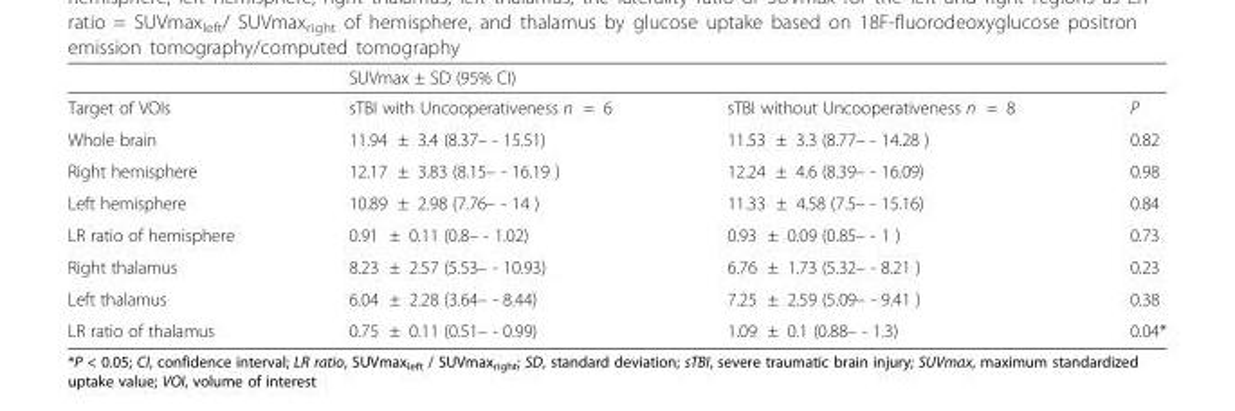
<table><thead><tr><td rowspan="2">Target of VOIs</td><td colspan="2">SUVmax ± SD (95% CI)</td><td rowspan="2">P</td></tr><tr><td>sTBI with Uncooperativeness n = 6</td><td>sTBI without Uncooperativeness n = 8</td></tr></thead><tbody><tr><td>Whole brain</td><td>11.94 ± 3.4 (8.37– - 15.51)</td><td>11.53 ± 3.3 (8.77– - 14.28 )</td><td>0.82</td></tr><tr><td>Right hemisphere</td><td>12.17 ± 3.83 (8.15– - 16.19 )</td><td>12.24 ± 4.6 (8.39– - 16.09)</td><td>0.98</td></tr><tr><td>Left hemisphere</td><td>10.89 ± 2.98 (7.76– - 14 )</td><td>11.33 ± 4.58 (7.5– - 15.16)</td><td>0.84</td></tr><tr><td>LR ratio of hemisphere</td><td>0.91 ± 0.11 (0.8– - 1.02)</td><td>0.93 ± 0.09 (0.85– - 1 )</td><td>0.73</td></tr><tr><td>Right thalamus</td><td>8.23 ± 2.57 (5.53– - 10.93)</td><td>6.76 ± 1.73 (5.32– - 8.21 )</td><td>0.23</td></tr><tr><td>Left thalamus</td><td>6.04 ± 2.28 (3.64– - 8.44)</td><td>7.25 ± 2.59 (5.09– - 9.41 )</td><td>0.38</td></tr><tr><td>LR ratio of thalamus</td><td>0.75 ± 0.11 (0.51– - 0.99)</td><td>1.09 ± 0.1 (0.88– - 1.3)</td><td>0.04*</td></tr></tbody></table>